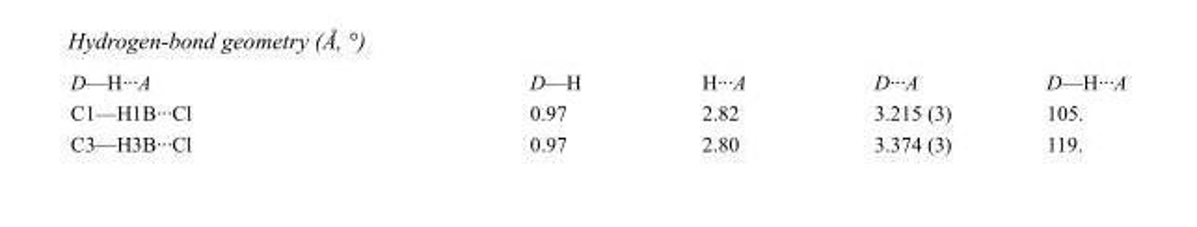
<table><tbody><tr><td>D—H···A</td><td>D—H</td><td>H···A</td><td>D···A</td><td>D—H···A</td></tr><tr><td>C1—H1B···Cl</td><td>0.97</td><td>2.82</td><td>3.215 (3)</td><td>105.</td></tr><tr><td>C3—H3B···Cl</td><td>0.97</td><td>2.80</td><td>3.374 (3)</td><td>119.</td></tr></tbody></table>